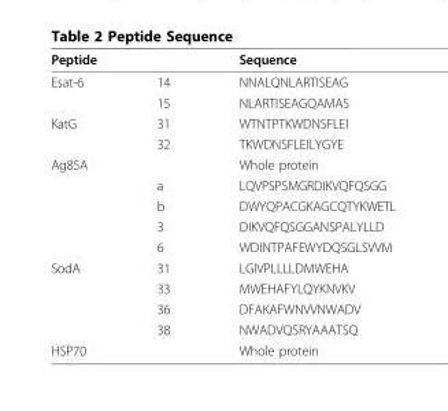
<table><thead><tr><td colspan="2">Peptide</td><td rowspan="2">Sequence NNALQNLARTISEAG</td></tr><tr><td>Esat-6</td><td>14</td></tr></thead><tbody><tr><td></td><td>15</td><td>NLARTISEAGQAMAS</td></tr><tr><td rowspan="2">KatG</td><td>31</td><td>WTNTPTKWDNSFLEI</td></tr><tr><td>32</td><td>TKWDNSFLEILYGYE</td></tr><tr><td rowspan="5">Ag85A</td><td></td><td>Whole protein</td></tr><tr><td>a</td><td>LQVPSPSMGRDIKVQFQSGG</td></tr><tr><td>b</td><td>DWYQPACGKAGCQTYKWETL</td></tr><tr><td>3</td><td>DIKVQFQSGGANSPALYLLD</td></tr><tr><td>6</td><td>WDINTPAFEWYDQSGLSVVM</td></tr><tr><td rowspan="4">SodA</td><td>31</td><td>LGIVPLLLLDMWEHA</td></tr><tr><td>33</td><td>MWEHAFYLQYKNVKV</td></tr><tr><td>36</td><td>DFAKAFWNVVNWADV</td></tr><tr><td>38</td><td>NWADVQSRYAAATSQ</td></tr><tr><td>HSP70</td><td></td><td>Whole protein</td></tr></tbody></table>